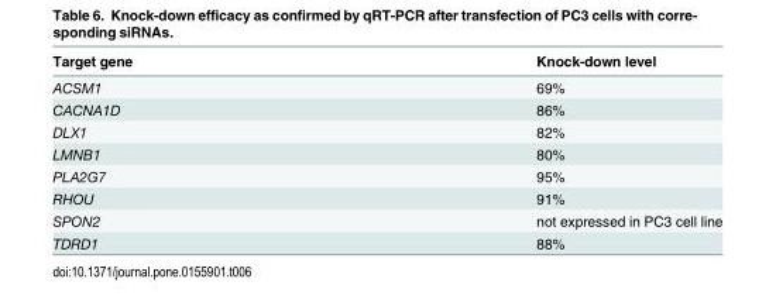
<table><thead><tr><td>Target gene</td><td>Knock-down level</td></tr></thead><tbody><tr><td>ACSM1</td><td>69%</td></tr><tr><td>CACNA1D</td><td>86%</td></tr><tr><td>DLX1</td><td>82%</td></tr><tr><td>LMNB1</td><td>80%</td></tr><tr><td>PLA2G7</td><td>95%</td></tr><tr><td>RHOU</td><td>91%</td></tr><tr><td>SPON2</td><td>not expressed in PC3 cell line</td></tr><tr><td>TDRD1</td><td>88%</td></tr></tbody></table>